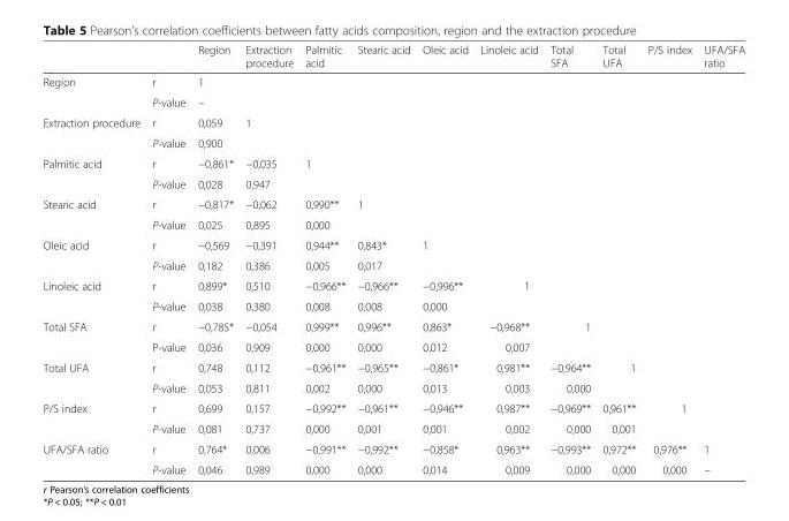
<table><thead><tr><td></td><td></td><td>Region</td><td>Extraction procedure</td><td>Palmitic acid</td><td>Stearic acid</td><td>Oleic acid</td><td>Linoleic acid</td><td>Total SFA</td><td>Total UFA</td><td>P/S index</td><td>UFA/SFA ratio</td></tr></thead><tbody><tr><td rowspan="2">Region</td><td>r</td><td>1</td><td></td><td></td><td></td><td></td><td></td><td></td><td></td><td></td><td></td></tr><tr><td>P-value</td><td>–</td><td></td><td></td><td></td><td></td><td></td><td></td><td></td><td></td><td></td></tr><tr><td rowspan="2">Extraction procedure</td><td>r</td><td>0,059</td><td>1</td><td></td><td></td><td></td><td></td><td></td><td></td><td></td><td></td></tr><tr><td>P-value</td><td>0,900</td><td></td><td></td><td></td><td></td><td></td><td></td><td></td><td></td><td></td></tr><tr><td rowspan="2">Palmitic acid</td><td>r</td><td>−0,861*</td><td>−0,035</td><td>1</td><td></td><td></td><td></td><td></td><td></td><td></td><td></td></tr><tr><td>P-value</td><td>0,028</td><td>0,947</td><td></td><td></td><td></td><td></td><td></td><td></td><td></td><td></td></tr><tr><td rowspan="2">Stearic acid</td><td>r</td><td>−0,817*</td><td>−0,062</td><td>0,990**</td><td>1</td><td></td><td></td><td></td><td></td><td></td><td></td></tr><tr><td>P-value</td><td>0,025</td><td>0,895</td><td>0,000</td><td></td><td></td><td></td><td></td><td></td><td></td><td></td></tr><tr><td rowspan="2">Oleic acid</td><td>r</td><td>−0,569</td><td>−0,391</td><td>0,944**</td><td>0,843*</td><td>1</td><td></td><td></td><td></td><td></td><td></td></tr><tr><td>P-value</td><td>0,182</td><td>0,386</td><td>0,005</td><td>0,017</td><td></td><td></td><td></td><td></td><td></td><td></td></tr><tr><td rowspan="2">Linoleic acid</td><td>r</td><td>0,899*</td><td>0,510</td><td>−0,966**</td><td>−0,966**</td><td>−0,996**</td><td>1</td><td></td><td></td><td></td><td></td></tr><tr><td>P-value</td><td>0,038</td><td>0,380</td><td>0,008</td><td>0,008</td><td>0,000</td><td></td><td></td><td></td><td></td><td></td></tr><tr><td rowspan="2">Total SFA</td><td>r</td><td>−0,785*</td><td>−0,054</td><td>0,999**</td><td>0,996**</td><td>0,863*</td><td>−0,968**</td><td>1</td><td></td><td></td><td></td></tr><tr><td>P-value</td><td>0,036</td><td>0,909</td><td>0,000</td><td>0,000</td><td>0,012</td><td>0,007</td><td></td><td></td><td></td><td></td></tr><tr><td rowspan="2">Total UFA</td><td>r</td><td>0,748</td><td>0,112</td><td>−0,961**</td><td>−0,965**</td><td>−0,861*</td><td>0,981**</td><td>−0,964**</td><td>1</td><td></td><td></td></tr><tr><td>P-value</td><td>0,053</td><td>0,811</td><td>0,002</td><td>0,000</td><td>0,013</td><td>0,003</td><td>0,000</td><td></td><td></td><td></td></tr><tr><td rowspan="2">P/S index</td><td>r</td><td>0,699</td><td>0,157</td><td>−0,992**</td><td>−0,961**</td><td>−0,946**</td><td>0,987**</td><td>−0,969**</td><td>0,961**</td><td>1</td><td></td></tr><tr><td>P-value</td><td>0,081</td><td>0,737</td><td>0,000</td><td>0,001</td><td>0,001</td><td>0,002</td><td>0,000</td><td>0,001</td><td></td><td></td></tr><tr><td rowspan="2">UFA/SFA ratio</td><td>r</td><td>0,764*</td><td>0,006</td><td>−0,991**</td><td>−0,992**</td><td>−0,858*</td><td>0,963**</td><td>−0,993**</td><td>0,972**</td><td>0,976**</td><td>1</td></tr><tr><td>P-value</td><td>0,046</td><td>0,989</td><td>0,000</td><td>0,000</td><td>0,014</td><td>0,009</td><td>0,000</td><td>0,000</td><td>0,000</td><td>–</td></tr></tbody></table>